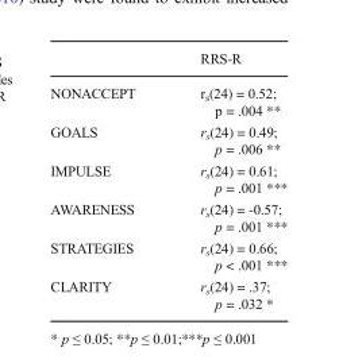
<table><thead><tr><td></td><td>RRS-R</td></tr></thead><tbody><tr><td>NONACCEPT</td><td>r<sub>s</sub>(24) = 0.52; p = .004 **</td></tr><tr><td>GOALS</td><td>r<sub>s</sub>(24) = 0.49; p = .006 **</td></tr><tr><td>IMPULSE</td><td>r<sub>s</sub>(24) = 0.61; p = .001 ***</td></tr><tr><td>AWARENESS</td><td>r<sub>s</sub>(24) = -0.57; p = .001 ***</td></tr><tr><td>STRATEGIES</td><td>r<sub>s</sub>(24) = 0.66; p &lt; .001 ***</td></tr><tr><td>CLARITY</td><td>r<sub>s</sub>(24) = .37; p = .032 *</td></tr></tbody></table>